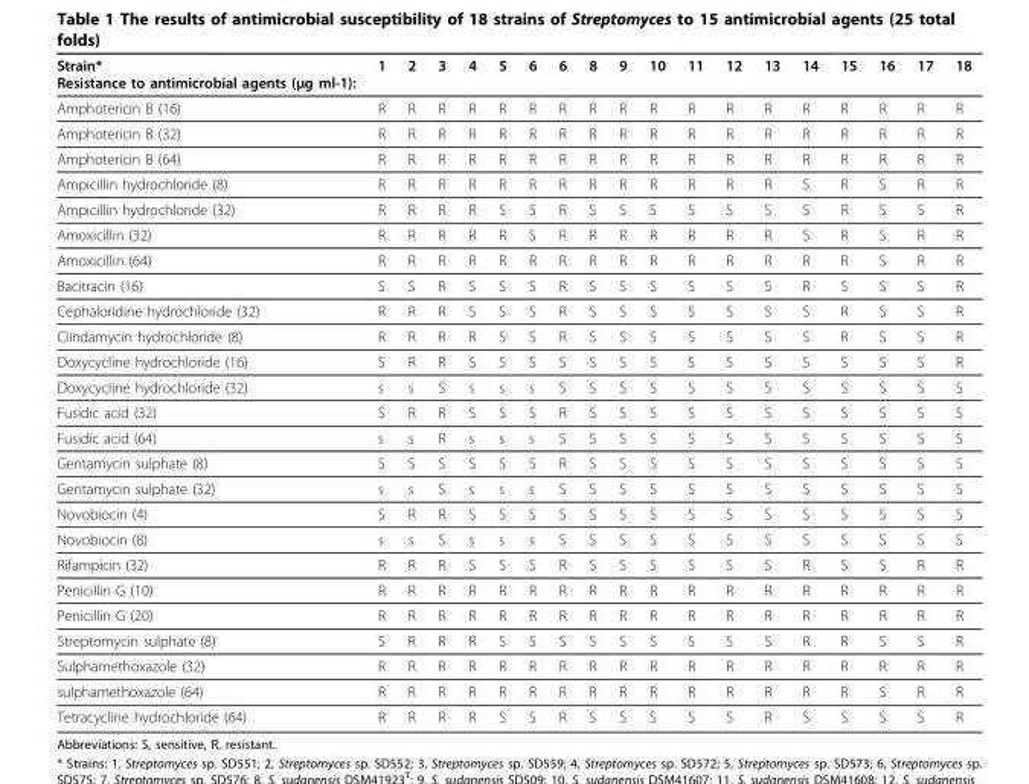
<table><thead><tr><td>Strain* Resistance to antimicrobial agents (μg ml-1):</td><td>1</td><td>2</td><td>3</td><td>4</td><td>5</td><td>6</td><td>6</td><td>8</td><td>9</td><td>10</td><td>11</td><td>12</td><td>13</td><td>14</td><td>15</td><td>16</td><td>17</td><td>18</td></tr></thead><tbody><tr><td>Amphotericin B (16)</td><td>R</td><td>R</td><td>R</td><td>R</td><td>R</td><td>R</td><td>R</td><td>R</td><td>R</td><td>R</td><td>R</td><td>R</td><td>R</td><td>R</td><td>R</td><td>R</td><td>R</td><td>R</td></tr><tr><td>Amphotericin B (32)</td><td>R</td><td>R</td><td>R</td><td>R</td><td>R</td><td>R</td><td>R</td><td>R</td><td>R</td><td>R</td><td>R</td><td>R</td><td>R</td><td>R</td><td>R</td><td>R</td><td>R</td><td>R</td></tr><tr><td>Amphotericin B (64)</td><td>R</td><td>R</td><td>R</td><td>R</td><td>R</td><td>R</td><td>R</td><td>R</td><td>R</td><td>R</td><td>R</td><td>R</td><td>R</td><td>R</td><td>R</td><td>R</td><td>R</td><td>R</td></tr><tr><td>Ampicillin hydrochloride (8)</td><td>R</td><td>R</td><td>R</td><td>R</td><td>R</td><td>R</td><td>R</td><td>R</td><td>R</td><td>R</td><td>R</td><td>R</td><td>R</td><td>S</td><td>R</td><td>S</td><td>R</td><td>R</td></tr><tr><td>Ampicillin hydrochloride (32)</td><td>R</td><td>R</td><td>R</td><td>R</td><td>S</td><td>S</td><td>R</td><td>S</td><td>S</td><td>S</td><td>S</td><td>S</td><td>S</td><td>S</td><td>R</td><td>S</td><td>S</td><td>R</td></tr><tr><td>Amoxicillin (32)</td><td>R</td><td>R</td><td>R</td><td>R</td><td>R</td><td>S</td><td>R</td><td>R</td><td>R</td><td>R</td><td>R</td><td>R</td><td>R</td><td>S</td><td>R</td><td>S</td><td>R</td><td>R</td></tr><tr><td>Amoxicillin (64)</td><td>R</td><td>R</td><td>R</td><td>R</td><td>R</td><td>R</td><td>R</td><td>R</td><td>R</td><td>R</td><td>R</td><td>R</td><td>R</td><td>R</td><td>R</td><td>S</td><td>R</td><td>R</td></tr><tr><td>Bacitracin (16)</td><td>S</td><td>S</td><td>R</td><td>S</td><td>S</td><td>S</td><td>R</td><td>S</td><td>S</td><td>S</td><td>S</td><td>S</td><td>S</td><td>R</td><td>S</td><td>S</td><td>S</td><td>R</td></tr><tr><td>Cephaloridine hydrochloride (32)</td><td>R</td><td>R</td><td>R</td><td>S</td><td>S</td><td>S</td><td>R</td><td>S</td><td>S</td><td>S</td><td>S</td><td>S</td><td>S</td><td>S</td><td>R</td><td>S</td><td>S</td><td>R</td></tr><tr><td>Clindamycin hydrochloride (8)</td><td>R</td><td>R</td><td>R</td><td>R</td><td>S</td><td>S</td><td>R</td><td>S</td><td>S</td><td>S</td><td>S</td><td>S</td><td>S</td><td>S</td><td>R</td><td>S</td><td>S</td><td>R</td></tr><tr><td>Doxycycline hydrochloride (16)</td><td>S</td><td>R</td><td>R</td><td>S</td><td>S</td><td>S</td><td>S</td><td>S</td><td>S</td><td>S</td><td>S</td><td>S</td><td>S</td><td>S</td><td>S</td><td>S</td><td>S</td><td>R</td></tr><tr><td>Doxycycline hydrochloride (32)</td><td>s</td><td>s</td><td>S</td><td>s</td><td>s</td><td>s</td><td>S</td><td>S</td><td>S</td><td>S</td><td>S</td><td>S</td><td>S</td><td>S</td><td>S</td><td>S</td><td>S</td><td>S</td></tr><tr><td>Fusidic acid (32)</td><td>S</td><td>R</td><td>R</td><td>S</td><td>S</td><td>S</td><td>R</td><td>S</td><td>S</td><td>S</td><td>S</td><td>S</td><td>S</td><td>S</td><td>S</td><td>S</td><td>S</td><td>S</td></tr><tr><td>Fusidic acid (64)</td><td>s</td><td>s</td><td>R</td><td>s</td><td>s</td><td>s</td><td>S</td><td>S</td><td>S</td><td>S</td><td>S</td><td>S</td><td>S</td><td>S</td><td>S</td><td>S</td><td>S</td><td>S</td></tr><tr><td>Gentamycin sulphate (8)</td><td>S</td><td>S</td><td>S</td><td>S</td><td>S</td><td>S</td><td>R</td><td>S</td><td>S</td><td>S</td><td>S</td><td>S</td><td>S</td><td>S</td><td>S</td><td>S</td><td>S</td><td>S</td></tr><tr><td>Gentamycin sulphate (32)</td><td>s</td><td>s</td><td>S</td><td>s</td><td>s</td><td>s</td><td>S</td><td>S</td><td>S</td><td>S</td><td>S</td><td>S</td><td>S</td><td>S</td><td>S</td><td>S</td><td>S</td><td>S</td></tr><tr><td>Novobiocin (4)</td><td>S</td><td>R</td><td>R</td><td>S</td><td>S</td><td>S</td><td>S</td><td>S</td><td>S</td><td>S</td><td>S</td><td>S</td><td>S</td><td>S</td><td>S</td><td>S</td><td>S</td><td>S</td></tr><tr><td>Novobiocin (8)</td><td>s</td><td>s</td><td>S</td><td>s</td><td>s</td><td>s</td><td>S</td><td>S</td><td>S</td><td>S</td><td>S</td><td>S</td><td>S</td><td>S</td><td>S</td><td>S</td><td>S</td><td>S</td></tr><tr><td>Rifampicin (32)</td><td>R</td><td>R</td><td>R</td><td>S</td><td>S</td><td>S</td><td>R</td><td>S</td><td>S</td><td>S</td><td>S</td><td>S</td><td>S</td><td>R</td><td>S</td><td>S</td><td>R</td><td>R</td></tr><tr><td>Penicillin G (10)</td><td>R</td><td>R</td><td>R</td><td>R</td><td>R</td><td>R</td><td>R</td><td>R</td><td>R</td><td>R</td><td>R</td><td>R</td><td>R</td><td>R</td><td>R</td><td>R</td><td>R</td><td>R</td></tr><tr><td>Penicillin G (20)</td><td>R</td><td>R</td><td>R</td><td>R</td><td>R</td><td>R</td><td>R</td><td>R</td><td>R</td><td>R</td><td>R</td><td>R</td><td>R</td><td>R</td><td>R</td><td>R</td><td>R</td><td>R</td></tr><tr><td>Streptomycin sulphate (8)</td><td>S</td><td>R</td><td>R</td><td>R</td><td>S</td><td>S</td><td>S</td><td>S</td><td>S</td><td>S</td><td>S</td><td>S</td><td>S</td><td>R</td><td>R</td><td>S</td><td>S</td><td>R</td></tr><tr><td>Sulphamethoxazole (32)</td><td>R</td><td>R</td><td>R</td><td>R</td><td>R</td><td>R</td><td>R</td><td>R</td><td>R</td><td>R</td><td>R</td><td>R</td><td>R</td><td>R</td><td>R</td><td>R</td><td>R</td><td>R</td></tr><tr><td>sulphamethoxazole (64)</td><td>R</td><td>R</td><td>R</td><td>R</td><td>R</td><td>R</td><td>R</td><td>R</td><td>R</td><td>R</td><td>R</td><td>R</td><td>R</td><td>R</td><td>R</td><td>S</td><td>R</td><td>R</td></tr><tr><td>Tetracycline hydrochloride (64)</td><td>R</td><td>R</td><td>R</td><td>R</td><td>S</td><td>S</td><td>R</td><td>S</td><td>S</td><td>S</td><td>S</td><td>S</td><td>R</td><td>S</td><td>S</td><td>S</td><td>S</td><td>R</td></tr></tbody></table>